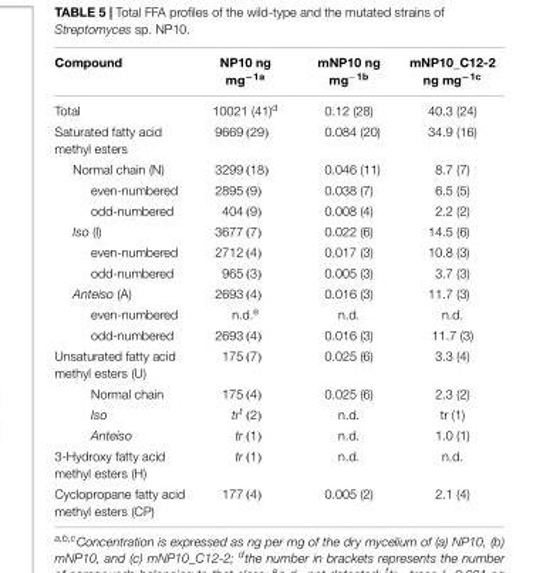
<table><thead><tr><td>Compound</td><td>NP10 ng mg<sup>−1a</sup></td><td>mNP10 ng mg<sup>−1b</sup></td><td>mNP10_C12-2 ng mg<sup>−1c</sup></td></tr></thead><tbody><tr><td>Total</td><td>10021 (41)<sup>d</sup></td><td>0.12 (28)</td><td>40.3 (24)</td></tr><tr><td>Saturated fatty acid methyl esters</td><td>9669 (29)</td><td>0.084 (20)</td><td>34.9 (16)</td></tr><tr><td>Normal chain (N)</td><td>3299 (18)</td><td>0.046 (11)</td><td>8.7 (7)</td></tr><tr><td>even-numbered</td><td>2895 (9)</td><td>0.038 (7)</td><td>6.5 (5)</td></tr><tr><td>odd-numbered</td><td>404 (9)</td><td>0.008 (4)</td><td>2.2 (2)</td></tr><tr><td>Iso (I)</td><td>3677 (7)</td><td>0.022 (6)</td><td>14.5 (6)</td></tr><tr><td>even-numbered</td><td>2712 (4)</td><td>0.017 (3)</td><td>10.8 (3)</td></tr><tr><td>odd-numbered</td><td>965 (3)</td><td>0.005 (3)</td><td>3.7 (3)</td></tr><tr><td>Anteiso (A)</td><td>2693 (4)</td><td>0.016 (3)</td><td>11.7 (3)</td></tr><tr><td>even-numbered</td><td>n.d.<sup>e</sup></td><td>n.d.</td><td>n.d.</td></tr><tr><td>odd-numbered</td><td>2693 (4)</td><td>0.016 (3)</td><td>11.7 (3)</td></tr><tr><td>Unsaturated fatty acid methyl esters (U)</td><td>175 (7)</td><td>0.025 (6)</td><td>3.3 (4)</td></tr><tr><td>Normal chain</td><td>175 (4)</td><td>0.025 (6)</td><td>2.3 (2)</td></tr><tr><td>Iso</td><td>tr<sup>f</sup> (2)</td><td>n.d.</td><td>tr (1)</td></tr><tr><td>Anteiso</td><td>tr (1)</td><td>n.d.</td><td>1.0 (1)</td></tr><tr><td>3-Hydroxy fatty acid methyl esters (H)</td><td>tr (1)</td><td>n.d.</td><td>n.d.</td></tr><tr><td>Cyclopropane fatty acid methyl esters (CP)</td><td>177 (4)</td><td>0.005 (2)</td><td>2.1 (4)</td></tr></tbody></table>